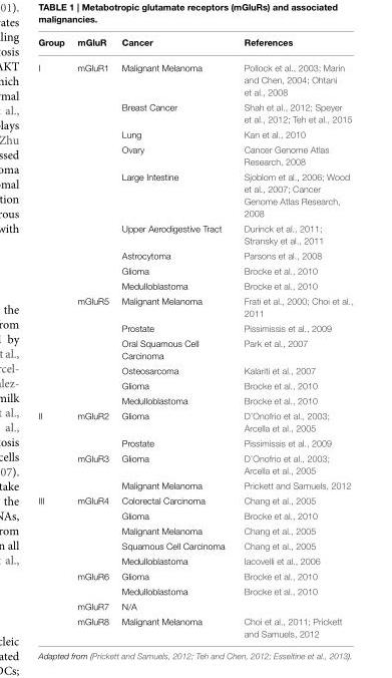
<table><thead><tr><td>Group</td><td>mGluR</td><td>Cancer</td><td>References</td></tr></thead><tbody><tr><td rowspan="15">I</td><td>mGluR1</td><td>Malignant Melanoma</td><td>Pollock et al., 2003; Marin and Chen, 2004; Ohtani et al., 2008</td></tr><tr><td></td><td>Breast Cancer</td><td>Shah et al., 2012; Speyer et al., 2012; Teh et al., 2015</td></tr><tr><td></td><td>Lung</td><td>Kan et al., 2010</td></tr><tr><td></td><td>Ovary</td><td>Cancer Genome Atlas Research, 2008</td></tr><tr><td></td><td>Large Intestine</td><td>Sjoblom et al., 2006; Wood et al., 2007; Cancer Genome Atlas Research, 2008</td></tr><tr><td></td><td>Upper Aerodigestive Tract</td><td>Durinck et al., 2011; Stransky et al., 2011</td></tr><tr><td></td><td>Astrocytoma</td><td>Parsons et al., 2008</td></tr><tr><td></td><td>Glioma</td><td>Brocke et al., 2010</td></tr><tr><td></td><td>Medulloblastoma</td><td>Brocke et al., 2010</td></tr><tr><td>mGluR5</td><td>Malignant Melanoma</td><td>Frati et al., 2000; Choi et al., 2011</td></tr><tr><td></td><td>Prostate</td><td>Pissimissis et al., 2009</td></tr><tr><td></td><td>Oral Squamous Cell Carcinoma</td><td>Park et al., 2007</td></tr><tr><td></td><td>Osteosarcoma</td><td>Kalariti et al., 2007</td></tr><tr><td></td><td>Glioma</td><td>Brocke et al., 2010</td></tr><tr><td></td><td>Medulloblastoma</td><td>Brocke et al., 2010</td></tr><tr><td rowspan="4">II</td><td>mGluR2</td><td>Glioma</td><td>D’Onofrio et al., 2003; Arcella et al., 2005</td></tr><tr><td></td><td>Prostate</td><td>Pissimissis et al., 2009</td></tr><tr><td>mGluR3</td><td>Glioma</td><td>D’Onofrio et al., 2003; Arcella et al., 2005</td></tr><tr><td></td><td>Malignant Melanoma</td><td>Prickett and Samuels, 2012</td></tr><tr><td rowspan="9">III</td><td>mGluR4</td><td>Colorectal Carcinoma</td><td>Chang et al., 2005</td></tr><tr><td></td><td>Glioma</td><td>Brocke et al., 2010</td></tr><tr><td></td><td>Malignant Melanoma</td><td>Chang et al., 2005</td></tr><tr><td></td><td>Squamous Cell Carcinoma</td><td>Chang et al., 2005</td></tr><tr><td></td><td>Medulloblastoma</td><td>Iacovelli et al., 2006</td></tr><tr><td>mGluR6</td><td>Glioma</td><td>Brocke et al., 2010</td></tr><tr><td></td><td>Medulloblastoma</td><td>Brocke et al., 2010</td></tr><tr><td>mGluR7</td><td>N/A</td><td></td></tr><tr><td>mGluR8</td><td>Malignant Melanoma</td><td>Choi et al., 2011; Prickett and Samuels, 2012</td></tr></tbody></table>